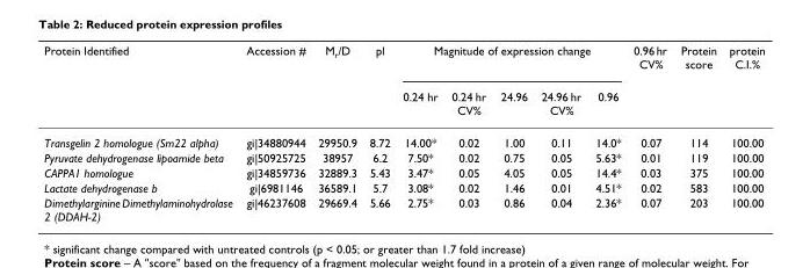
<table><thead><tr><td rowspan="2">Protein Identified</td><td rowspan="2">Accession #</td><td rowspan="2">M<sub>r</sub>/D</td><td rowspan="2">pl</td><td colspan="5">Magnitude of expression change</td><td rowspan="2">0.96 hr CV%</td><td rowspan="2">Protein score</td><td rowspan="2">protein C.I.%</td></tr><tr><td>0.24 hr</td><td>0.24 hr CV%</td><td>24.96</td><td>24.96 hr CV%</td><td>0.96</td></tr></thead><tbody><tr><td>Transgelin 2 homologue (Sm22 alpha)</td><td>gi|34880944</td><td>29950.9</td><td>8.72</td><td>14.00*</td><td>0.02</td><td>1.00</td><td>0.11</td><td>14.0*</td><td>0.07</td><td>114</td><td>100.00</td></tr><tr><td>Pyruvate dehydrogenase lipoamide beta</td><td>gi|50925725</td><td>38957</td><td>6.2</td><td>7.50*</td><td>0.02</td><td>0.75</td><td>0.05</td><td>5.63*</td><td>0.01</td><td>119</td><td>100.00</td></tr><tr><td>CAPPA1 homologue</td><td>gi|34859736</td><td>32889.3</td><td>5.43</td><td>3.47*</td><td>0.05</td><td>4.05</td><td>0.05</td><td>14.4*</td><td>0.03</td><td>375</td><td>100.00</td></tr><tr><td>Lactate dehydrogenase b</td><td>gi|6981146</td><td>36589.1</td><td>5.7</td><td>3.08*</td><td>0.02</td><td>1.46</td><td>0.01</td><td>4.51*</td><td>0.02</td><td>583</td><td>100.00</td></tr><tr><td>Dimethylarginine Dimethylaminohydrolase 2 (DDAH-2)</td><td>gi|46237608</td><td>29669.4</td><td>5.66</td><td>2.75*</td><td>0.03</td><td>0.86</td><td>0.04</td><td>2.36*</td><td>0.07</td><td>203</td><td>100.00</td></tr></tbody></table>